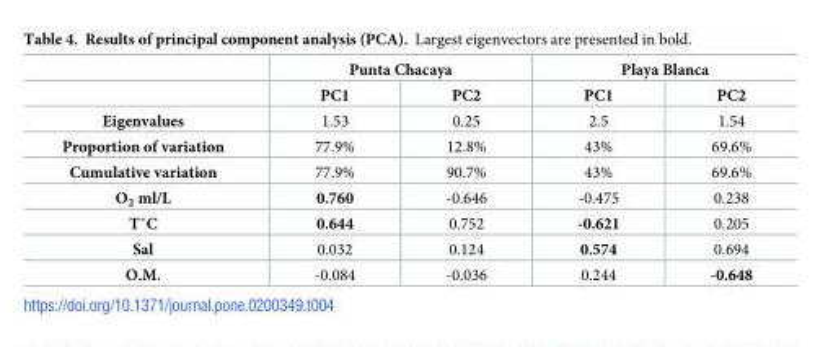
<table><thead><tr><td rowspan="2"></td><td colspan="2">Punta Chacaya</td><td colspan="2">Playa Blanca</td></tr><tr><td>PC1</td><td>PC2</td><td>PC1</td><td>PC2</td></tr></thead><tbody><tr><td>Eigenvalues</td><td>1.53</td><td>0.25</td><td>2.5</td><td>1.54</td></tr><tr><td>Proportion of variation</td><td>77.9%</td><td>12.8%</td><td>43%</td><td>69.6%</td></tr><tr><td>Cumulative variation</td><td>77.9%</td><td>90.7%</td><td>43%</td><td>69.6%</td></tr><tr><td>O<sub>2</sub> ml/L</td><td>0.760</td><td>-0.646</td><td>-0.475</td><td>0.238</td></tr><tr><td>T˚C</td><td>0.644</td><td>0.752</td><td>-0.621</td><td>0.205</td></tr><tr><td>Sal</td><td>0.032</td><td>0.124</td><td>0.574</td><td>0.694</td></tr><tr><td>O.M.</td><td>-0.084</td><td>-0.036</td><td>0.244</td><td>-0.648</td></tr></tbody></table>